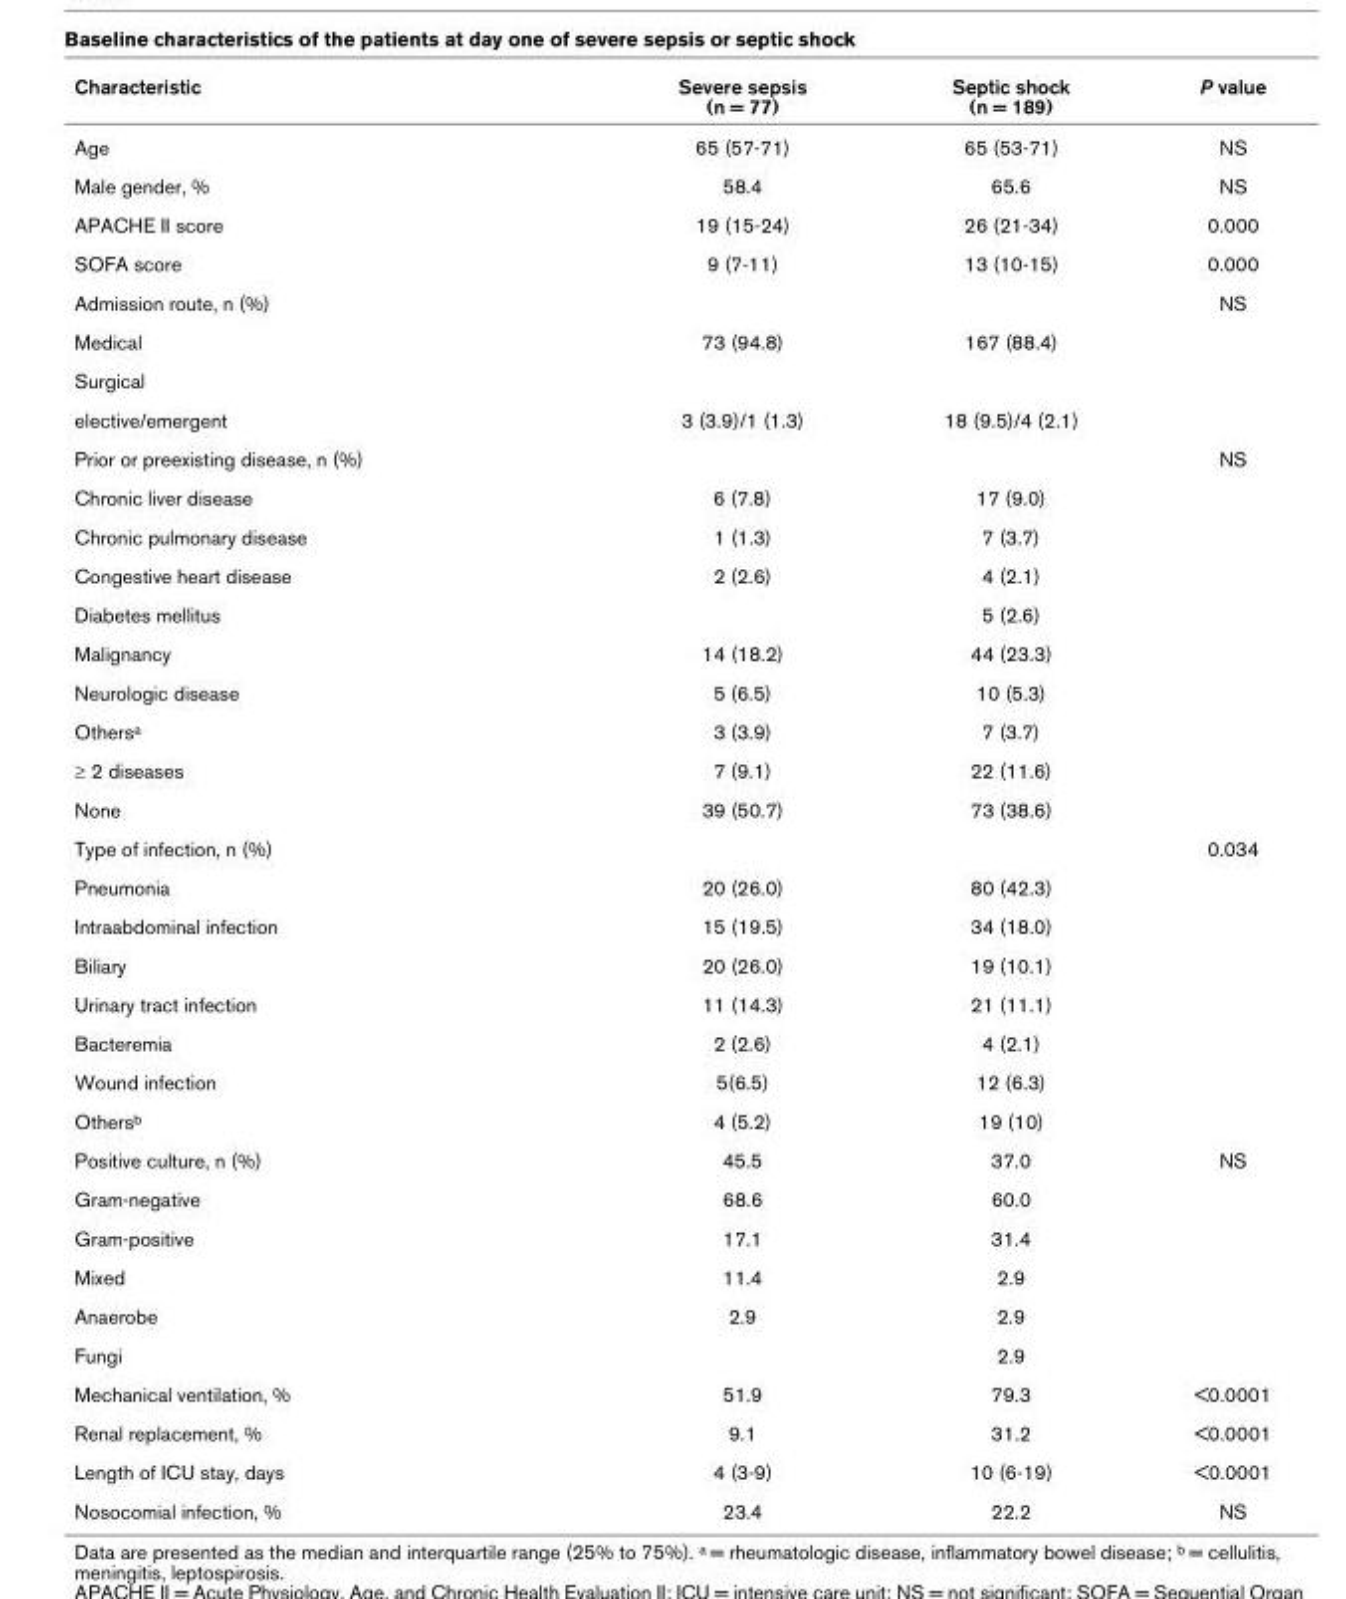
<table><thead><tr><td>Characteristic</td><td>Severe sepsis (n = 77)</td><td>Septic shock (n = 189)</td><td>P value</td></tr></thead><tbody><tr><td>Age</td><td>65 (57-71)</td><td>65 (53-71)</td><td>NS</td></tr><tr><td>Male gender, %</td><td>58.4</td><td>65.6</td><td>NS</td></tr><tr><td>APACHE II score</td><td>19 (15-24)</td><td>26 (21-34)</td><td>0.000</td></tr><tr><td>SOFA score</td><td>9 (7-11)</td><td>13 (10-15)</td><td>0.000</td></tr><tr><td>Admission route, n (%)</td><td></td><td></td><td>NS</td></tr><tr><td>Medical</td><td>73 (94.8)</td><td>167 (88.4)</td><td></td></tr><tr><td colspan="4">Surgical</td></tr><tr><td>elective/emergent</td><td>3 (3.9)/1 (1.3)</td><td>18 (9.5)/4 (2.1)</td><td></td></tr><tr><td>Prior or preexisting disease, n (%)</td><td></td><td></td><td>NS</td></tr><tr><td>Chronic liver disease</td><td>6 (7.8)</td><td>17 (9.0)</td><td></td></tr><tr><td>Chronic pulmonary disease</td><td>1 (1.3)</td><td>7 (3.7)</td><td></td></tr><tr><td>Congestive heart disease</td><td>2 (2.6)</td><td>4 (2.1)</td><td></td></tr><tr><td>Diabetes mellitus</td><td></td><td>5 (2.6)</td><td></td></tr><tr><td>Malignancy</td><td>14 (18.2)</td><td>44 (23.3)</td><td></td></tr><tr><td>Neurologic disease</td><td>5 (6.5)</td><td>10 (5.3)</td><td></td></tr><tr><td>Others<sup>a</sup></td><td>3 (3.9)</td><td>7 (3.7)</td><td></td></tr><tr><td>≥ 2 diseases</td><td>7 (9.1)</td><td>22 (11.6)</td><td></td></tr><tr><td>None</td><td>39 (50.7)</td><td>73 (38.6)</td><td></td></tr><tr><td>Type of infection, n (%)</td><td></td><td></td><td>0.034</td></tr><tr><td>Pneumonia</td><td>20 (26.0)</td><td>80 (42.3)</td><td></td></tr><tr><td>Intraabdominal infection</td><td>15 (19.5)</td><td>34 (18.0)</td><td></td></tr><tr><td>Biliary</td><td>20 (26.0)</td><td>19 (10.1)</td><td></td></tr><tr><td>Urinary tract infection</td><td>11 (14.3)</td><td>21 (11.1)</td><td></td></tr><tr><td>Bacteremia</td><td>2 (2.6)</td><td>4 (2.1)</td><td></td></tr><tr><td>Wound infection</td><td>5(6.5)</td><td>12 (6.3)</td><td></td></tr><tr><td>Others<sup>b</sup></td><td>4 (5.2)</td><td>19 (10)</td><td></td></tr><tr><td>Positive culture, n (%)</td><td>45.5</td><td>37.0</td><td>NS</td></tr><tr><td>Gram-negative</td><td>68.6</td><td>60.0</td><td></td></tr><tr><td>Gram-positive</td><td>17.1</td><td>31.4</td><td></td></tr><tr><td>Mixed</td><td>11.4</td><td>2.9</td><td></td></tr><tr><td>Anaerobe</td><td>2.9</td><td>2.9</td><td></td></tr><tr><td>Fungi</td><td></td><td>2.9</td><td></td></tr><tr><td>Mechanical ventilation, %</td><td>51.9</td><td>79.3</td><td>&lt;0.0001</td></tr><tr><td>Renal replacement, %</td><td>9.1</td><td>31.2</td><td>&lt;0.0001</td></tr><tr><td>Length of ICU stay, days</td><td>4 (3-9)</td><td>10 (6-19)</td><td>&lt;0.0001</td></tr><tr><td>Nosocomial infection, %</td><td>23.4</td><td>22.2</td><td>NS</td></tr></tbody></table>